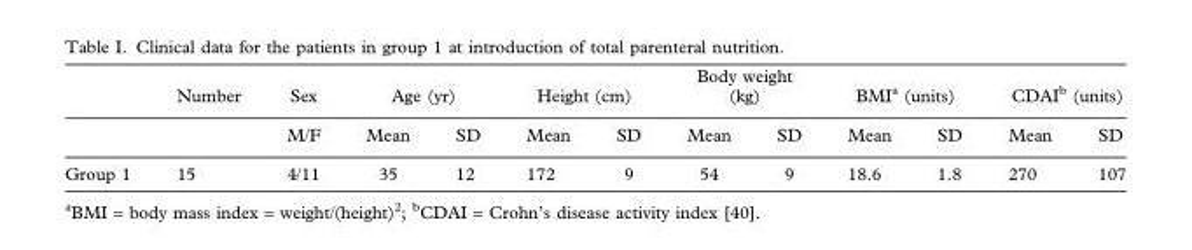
<table><thead><tr><td rowspan="2"></td><td rowspan="2">Number</td><td rowspan="2">Sex M/F</td><td colspan="2">Age (yr)</td><td colspan="2">Height (cm)</td><td colspan="2">Body weight (kg)</td><td colspan="2">BMI<sup>a</sup> (units)</td><td colspan="2">CDAI<sup>b</sup> (units)</td></tr><tr><td>Mean</td><td>SD</td><td>Mean</td><td>SD</td><td>Mean</td><td>SD</td><td>Mean</td><td>SD</td><td>Mean</td><td>SD</td></tr></thead><tbody><tr><td>Group 1</td><td>15</td><td>4/11</td><td>35</td><td>12</td><td>172</td><td>9</td><td>54</td><td>9</td><td>18.6</td><td>1.8</td><td>270</td><td>107</td></tr></tbody></table>